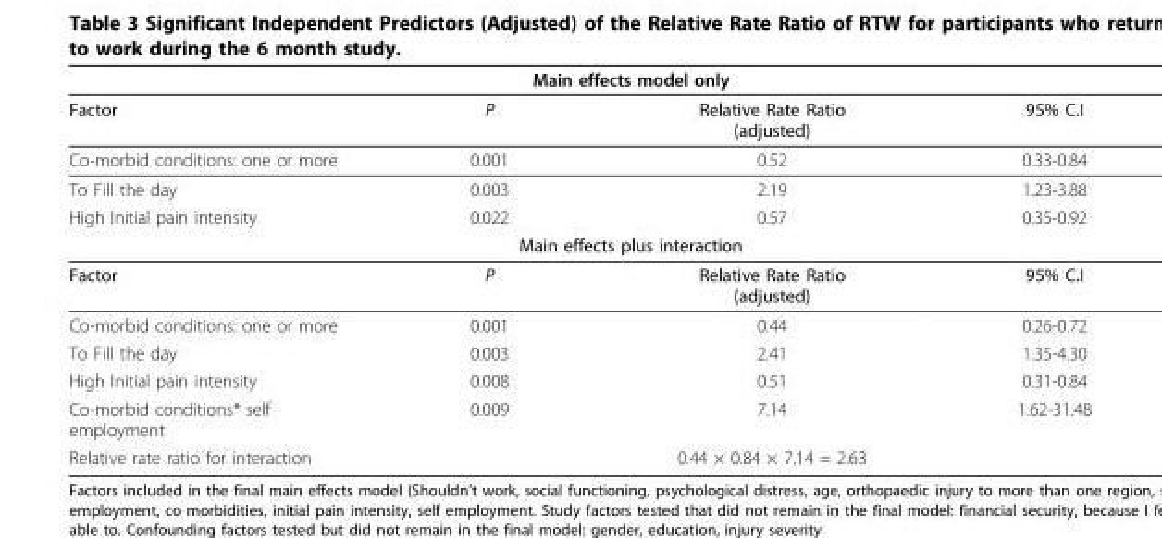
<table><thead><tr><td colspan="4">Main effects model only</td></tr><tr><td>Factor</td><td>P</td><td>Relative Rate Ratio (adjusted)</td><td>95% C.I</td></tr></thead><tbody><tr><td>Co-morbid conditions: one or more</td><td>0.001</td><td>0.52</td><td>0.33-0.84</td></tr><tr><td>To Fill the day</td><td>0.003</td><td>2.19</td><td>1.23-3.88</td></tr><tr><td>High Initial pain intensity</td><td>0.022</td><td>0.57</td><td>0.35-0.92</td></tr><tr><td colspan="4">Main effects plus interaction</td></tr><tr><td>Factor</td><td>P</td><td>Relative Rate Ratio (adjusted)</td><td>95% C.I</td></tr><tr><td>Co-morbid conditions: one or more</td><td>0.001</td><td>0.44</td><td>0.26-0.72</td></tr><tr><td>To Fill the day</td><td>0.003</td><td>2.41</td><td>1.35-4.30</td></tr><tr><td>High Initial pain intensity</td><td>0.008</td><td>0.51</td><td>0.31-0.84</td></tr><tr><td>Co-morbid conditions* self employment</td><td>0.009</td><td>7.14</td><td>1.62-31.48</td></tr><tr><td>Relative rate ratio for interaction</td><td colspan="3">0.44 × 0.84 × 7.14 = 2.63</td></tr></tbody></table>